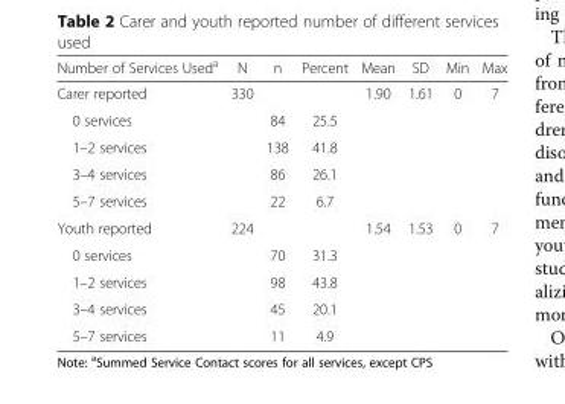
<table><thead><tr><td>Number of Services Used<sup>a</sup></td><td>N</td><td>n</td><td>Percent</td><td>Mean</td><td>SD</td><td>Min</td><td>Max</td></tr></thead><tbody><tr><td>Carer reported</td><td>330</td><td></td><td></td><td>1.90</td><td>1.61</td><td>0</td><td>7</td></tr><tr><td>0 services</td><td></td><td>84</td><td>25.5</td><td></td><td></td><td></td><td></td></tr><tr><td>1–2 services</td><td></td><td>138</td><td>41.8</td><td></td><td></td><td></td><td></td></tr><tr><td>3–4 services</td><td></td><td>86</td><td>26.1</td><td></td><td></td><td></td><td></td></tr><tr><td>5–7 services</td><td></td><td>22</td><td>6.7</td><td></td><td></td><td></td><td></td></tr><tr><td>Youth reported</td><td>224</td><td></td><td></td><td>1.54</td><td>1.53</td><td>0</td><td>7</td></tr><tr><td>0 services</td><td></td><td>70</td><td>31.3</td><td></td><td></td><td></td><td></td></tr><tr><td>1–2 services</td><td></td><td>98</td><td>43.8</td><td></td><td></td><td></td><td></td></tr><tr><td>3–4 services</td><td></td><td>45</td><td>20.1</td><td></td><td></td><td></td><td></td></tr><tr><td>5–7 services</td><td></td><td>11</td><td>4.9</td><td></td><td></td><td></td><td></td></tr></tbody></table>